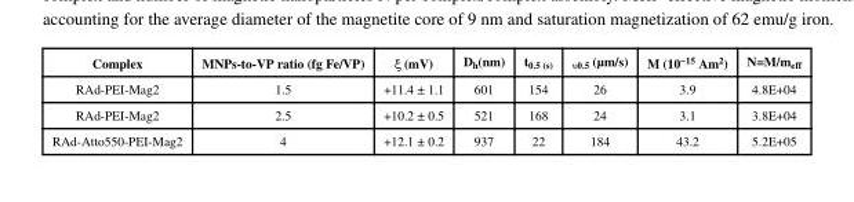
<table><thead><tr><td>Complex</td><td>MNPs-to-VP ratio (fg Fe/VP)</td><td>ξ (mV)</td><td>D<sub>h</sub>(nm)</td><td>t<sub>0.5 (s)</sub></td><td><sub>υ0.5</sub> (μm/s)</td><td>M (10<sup>−15</sup> Am<sup>2</sup>)</td><td>N=M/m<sub>eff</sub></td></tr></thead><tbody><tr><td>RAd-PEI-Mag2</td><td>1.5</td><td>+11.4 ± 1.1</td><td>601</td><td>154</td><td>26</td><td>3.9</td><td>4.8E+04</td></tr><tr><td>RAd-PEI-Mag2</td><td>2.5</td><td>+10.2 ± 0.5</td><td>521</td><td>168</td><td>24</td><td>3.1</td><td>3.8E+04</td></tr><tr><td>RAd-Atto550-PEI-Mag2</td><td>4</td><td>+12.1 ± 0.2</td><td>937</td><td>22</td><td>184</td><td>43.2</td><td>5.2E+05</td></tr></tbody></table>